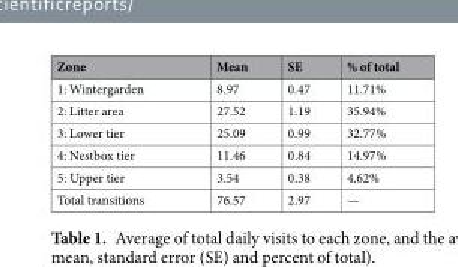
<table><thead><tr><td>Zone</td><td>Mean</td><td>SE</td><td>% of total</td></tr></thead><tbody><tr><td>1: Wintergarden</td><td>8.97</td><td>0.47</td><td>11.71%</td></tr><tr><td>2: Litter area</td><td>27.52</td><td>1.19</td><td>35.94%</td></tr><tr><td>3: Lower tier</td><td>25.09</td><td>0.99</td><td>32.77%</td></tr><tr><td>4: Nestbox tier</td><td>11.46</td><td>0.84</td><td>14.97%</td></tr><tr><td>5: Upper tier</td><td>3.54</td><td>0.38</td><td>4.62%</td></tr><tr><td>Total transitions</td><td>76.57</td><td>2.97</td><td>—</td></tr></tbody></table>